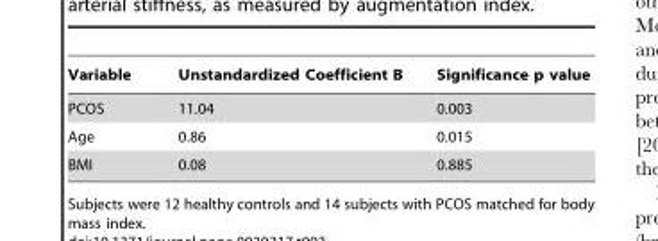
<table><thead><tr><td>Variable</td><td>Unstandardized Coefficient B</td><td>Significance p value</td></tr></thead><tbody><tr><td>PCOS</td><td>11.04</td><td>0.003</td></tr><tr><td>Age</td><td>0.86</td><td>0.015</td></tr><tr><td>BMI</td><td>0.08</td><td>0.885</td></tr></tbody></table>